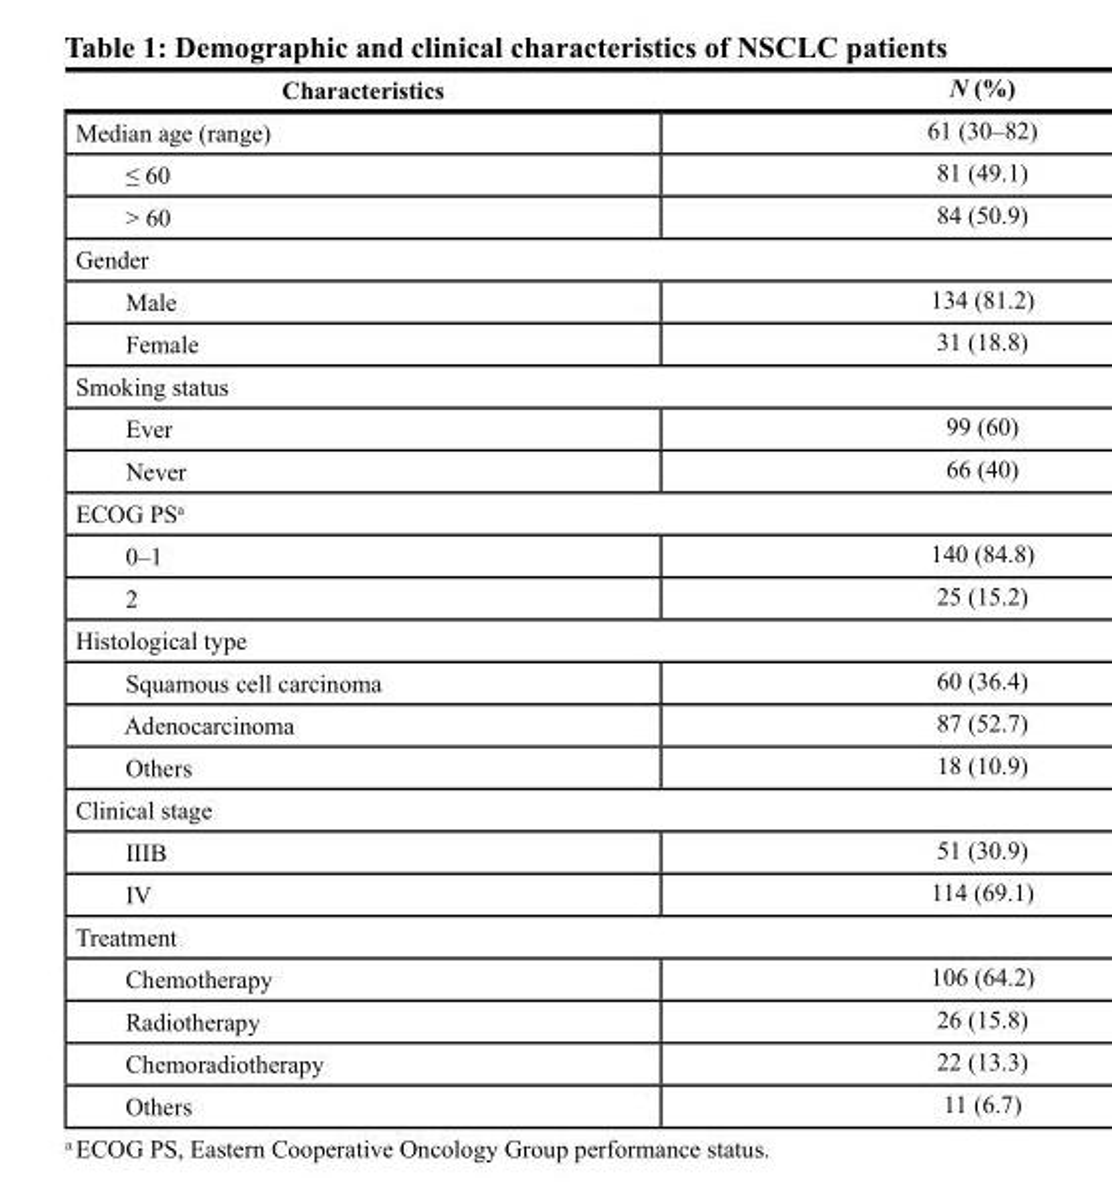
<table><thead><tr><td>Characteristics</td><td>N (%)</td></tr></thead><tbody><tr><td>Median age (range)</td><td>61 (30–82)</td></tr><tr><td>≤ 60</td><td>81 (49.1)</td></tr><tr><td>˃ 60</td><td>84 (50.9)</td></tr><tr><td colspan="2">Gender</td></tr><tr><td>Male</td><td>134 (81.2)</td></tr><tr><td>Female</td><td>31 (18.8)</td></tr><tr><td colspan="2">Smoking status</td></tr><tr><td>Ever</td><td>99 (60)</td></tr><tr><td>Never</td><td>66 (40)</td></tr><tr><td colspan="2">ECOG PS<sup>a</sup></td></tr><tr><td>0–1</td><td>140 (84.8)</td></tr><tr><td>2</td><td>25 (15.2)</td></tr><tr><td colspan="2">Histological type</td></tr><tr><td>Squamous cell carcinoma</td><td>60 (36.4)</td></tr><tr><td>Adenocarcinoma</td><td>87 (52.7)</td></tr><tr><td>Others</td><td>18 (10.9)</td></tr><tr><td colspan="2">Clinical stage</td></tr><tr><td>IIIB</td><td>51 (30.9)</td></tr><tr><td>IV</td><td>114 (69.1)</td></tr><tr><td colspan="2">Treatment</td></tr><tr><td>Chemotherapy</td><td>106 (64.2)</td></tr><tr><td>Radiotherapy</td><td>26 (15.8)</td></tr><tr><td>Chemoradiotherapy</td><td>22 (13.3)</td></tr><tr><td>Others</td><td>11 (6.7)</td></tr></tbody></table>